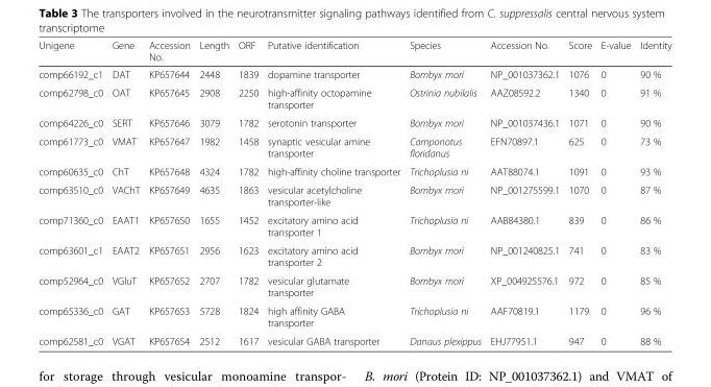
<table><thead><tr><td>Unigene</td><td>Gene</td><td>Accession No.</td><td>Length</td><td>ORF</td><td>Putative identification</td><td>Species</td><td>Accession No.</td><td>Score</td><td>E-value</td><td>Identity</td></tr></thead><tbody><tr><td>comp66192_c1</td><td>DAT</td><td>KP657644</td><td>2448</td><td>1839</td><td>dopamine transporter</td><td>Bombyx mori</td><td>NP_001037362.1</td><td>1076</td><td>0</td><td>90 %</td></tr><tr><td>comp62798_c0</td><td>OAT</td><td>KP657645</td><td>2908</td><td>2250</td><td>high-affinity octopamine transporter</td><td>Ostrinia nubilalis</td><td>AAZ08592.2</td><td>1340</td><td>0</td><td>91 %</td></tr><tr><td>comp64226_c0</td><td>SERT</td><td>KP657646</td><td>3079</td><td>1782</td><td>serotonin transporter</td><td>Bombyx mori</td><td>NP_001037436.1</td><td>1071</td><td>0</td><td>90 %</td></tr><tr><td>comp61773_c0</td><td>VMAT</td><td>KP657647</td><td>1982</td><td>1458</td><td>synaptic vesicular amine transporter</td><td>Camponotus floridanus</td><td>EFN70897.1</td><td>625</td><td>0</td><td>73 %</td></tr><tr><td>comp60635_c0</td><td>ChT</td><td>KP657648</td><td>4324</td><td>1782</td><td>high-affinity choline transporter</td><td>Trichoplusia ni</td><td>AAT88074.1</td><td>1091</td><td>0</td><td>93 %</td></tr><tr><td>comp63510_c0</td><td>VAChT</td><td>KP657649</td><td>4635</td><td>1863</td><td>vesicular acetylcholine transporter-like</td><td>Bombyx mori</td><td>NP_001275599.1</td><td>1070</td><td>0</td><td>87 %</td></tr><tr><td>comp71360_c0</td><td>EAAT1</td><td>KP657650</td><td>1655</td><td>1452</td><td>excitatory amino acid transporter 1</td><td>Trichoplusia ni</td><td>AAB84380.1</td><td>839</td><td>0</td><td>86 %</td></tr><tr><td>comp63601_c1</td><td>EAAT2</td><td>KP657651</td><td>2956</td><td>1623</td><td>excitatory amino acid transporter 2</td><td>Bombyx mori</td><td>NP_001240825.1</td><td>741</td><td>0</td><td>83 %</td></tr><tr><td>comp52964_c0</td><td>VGluT</td><td>KP657652</td><td>2707</td><td>1782</td><td>vesicular glutamate transporter</td><td>Bombyx mori</td><td>XP_004925576.1</td><td>972</td><td>0</td><td>85 %</td></tr><tr><td>comp65336_c0</td><td>GAT</td><td>KP657653</td><td>5728</td><td>1824</td><td>high affinity GABA transporter</td><td>Trichoplusia ni</td><td>AAF70819.1</td><td>1179</td><td>0</td><td>96 %</td></tr><tr><td>comp62581_c0</td><td>VGAT</td><td>KP657654</td><td>2512</td><td>1617</td><td>vesicular GABA transporter</td><td>Danaus plexippus</td><td>EHJ77951.1</td><td>947</td><td>0</td><td>88 %</td></tr></tbody></table>